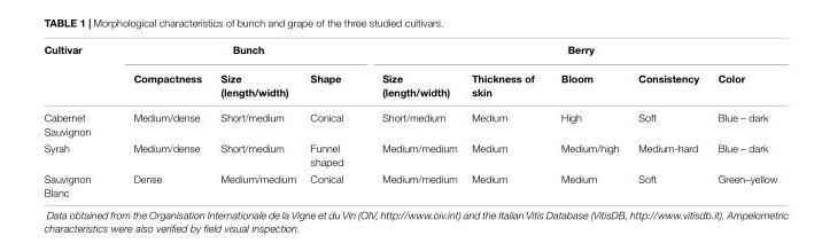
<table><thead><tr><td rowspan="2">Cultivar</td><td colspan="3">Bunch</td><td colspan="5">Berry</td></tr><tr><td>Compactness</td><td>Size (length/width)</td><td>Shape</td><td>Size (length/width)</td><td>Thickness of skin</td><td>Bloom</td><td>Consistency</td><td>Color</td></tr></thead><tbody><tr><td>Cabernet Sauvignon</td><td>Medium/dense</td><td>Short/medium</td><td>Conical</td><td>Short/medium</td><td>Medium</td><td>High</td><td>Soft</td><td>Blue – dark</td></tr><tr><td>Syrah</td><td>Medium/dense</td><td>Short/medium</td><td>Funnel shaped</td><td>Medium/medium</td><td>Medium</td><td>Medium/high</td><td>Medium-hard</td><td>Blue – dark</td></tr><tr><td>Sauvignon Blanc</td><td>Dense</td><td>Medium/medium</td><td>Conical</td><td>Medium/medium</td><td>Medium</td><td>Medium</td><td>Soft</td><td>Green–yellow</td></tr></tbody></table>